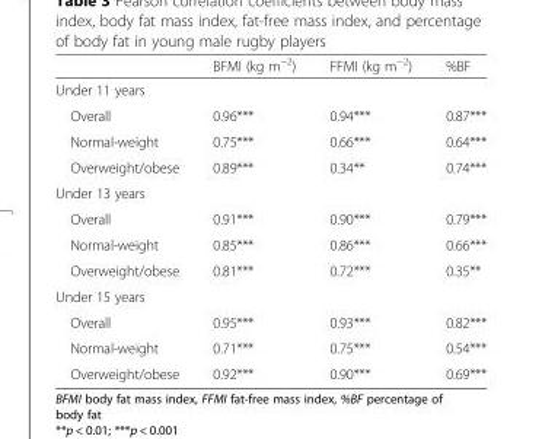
<table><thead><tr><td></td><td>BFMI (kg m<sup>−2</sup>)</td><td>FFMI (kg m<sup>−2</sup>)</td><td>%BF</td></tr></thead><tbody><tr><td colspan="4">Under 11 years</td></tr><tr><td>Overall</td><td>0.96***</td><td>0.94***</td><td>0.87***</td></tr><tr><td>Normal-weight</td><td>0.75***</td><td>0.66***</td><td>0.64***</td></tr><tr><td>Overweight/obese</td><td>0.89***</td><td>0.34**</td><td>0.74***</td></tr><tr><td colspan="4">Under 13 years</td></tr><tr><td>Overall</td><td>0.91***</td><td>0.90***</td><td>0.79***</td></tr><tr><td>Normal-weight</td><td>0.85***</td><td>0.86***</td><td>0.66***</td></tr><tr><td>Overweight/obese</td><td>0.81***</td><td>0.72***</td><td>0.35**</td></tr><tr><td colspan="4">Under 15 years</td></tr><tr><td>Overall</td><td>0.95***</td><td>0.93***</td><td>0.82***</td></tr><tr><td>Normal-weight</td><td>0.71***</td><td>0.75***</td><td>0.54***</td></tr><tr><td>Overweight/obese</td><td>0.92***</td><td>0.90***</td><td>0.69***</td></tr></tbody></table>